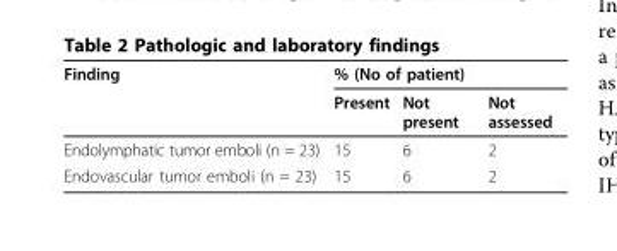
<table><thead><tr><td rowspan="2">Finding</td><td colspan="3">% (No of patient)</td></tr><tr><td>Present</td><td>Not present</td><td>Not assessed</td></tr></thead><tbody><tr><td>Endolymphatic tumor emboli (n = 23)</td><td>15</td><td>6</td><td>2</td></tr><tr><td>Endovascular tumor emboli (n = 23)</td><td>15</td><td>6</td><td>2</td></tr></tbody></table>